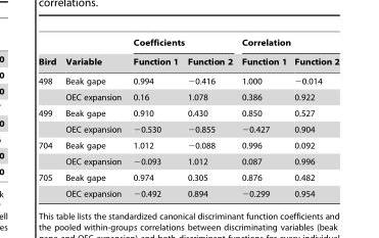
<table><thead><tr><td rowspan="2">Bird</td><td rowspan="2">Variable</td><td colspan="2">Coefficients</td><td colspan="2">Correlation</td></tr><tr><td>Function 1</td><td>Function 2</td><td>Function 1</td><td>Function 2</td></tr></thead><tbody><tr><td rowspan="2">498</td><td>Beak gape</td><td>0.994</td><td>−0.416</td><td>1.000</td><td>−0.014</td></tr><tr><td>OEC expansion</td><td>0.16</td><td>1.078</td><td>0.386</td><td>0.922</td></tr><tr><td rowspan="2">499</td><td>Beak gape</td><td>0.910</td><td>0.430</td><td>0.850</td><td>0.527</td></tr><tr><td>OEC expansion</td><td>−0.530</td><td>−0.855</td><td>−0.427</td><td>0.904</td></tr><tr><td rowspan="2">704</td><td>Beak gape</td><td>1.012</td><td>−0.088</td><td>0.996</td><td>0.092</td></tr><tr><td>OEC expansion</td><td>−0.093</td><td>1.012</td><td>0.087</td><td>0.996</td></tr><tr><td rowspan="2">705</td><td>Beak gape</td><td>0.974</td><td>0.305</td><td>0.876</td><td>0.482</td></tr><tr><td>OEC expansion</td><td>−0.492</td><td>0.894</td><td>−0.299</td><td>0.954</td></tr></tbody></table>